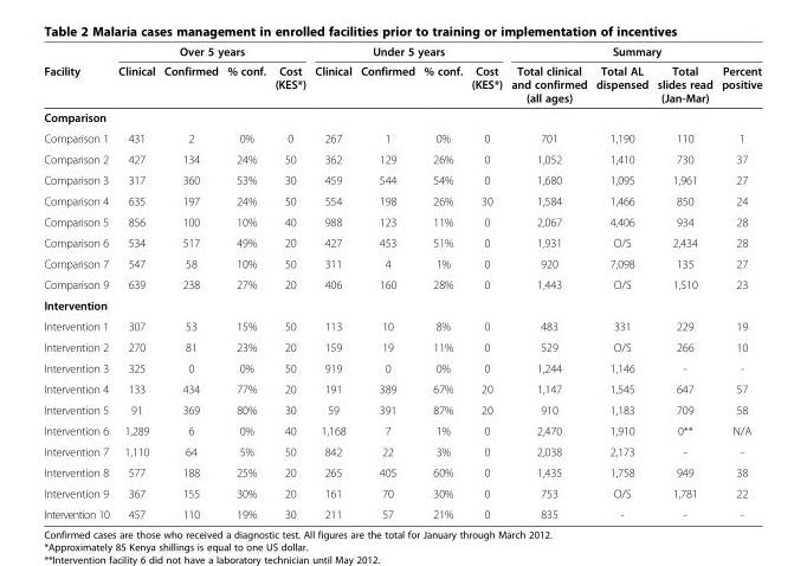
<table><thead><tr><td rowspan="2">Facility</td><td colspan="4">Over 5 years</td><td colspan="4">Under 5 years</td><td colspan="4">Summary</td></tr><tr><td>Clinical</td><td>Confirmed</td><td>% conf.</td><td>Cost (KES*)</td><td>Clinical</td><td>Confirmed</td><td>% conf.</td><td>Cost (KES*)</td><td>Total clinical and confirmed (all ages)</td><td>Total AL dispensed</td><td>Total slides read (Jan-Mar)</td><td>Percent positive</td></tr></thead><tbody><tr><td colspan="13">Comparison</td></tr><tr><td>Comparison 1</td><td>431</td><td>2</td><td>0%</td><td>0</td><td>267</td><td>1</td><td>0%</td><td>0</td><td>701</td><td>1,190</td><td>110</td><td>1</td></tr><tr><td>Comparison 2</td><td>427</td><td>134</td><td>24%</td><td>50</td><td>362</td><td>129</td><td>26%</td><td>0</td><td>1,052</td><td>1,410</td><td>730</td><td>37</td></tr><tr><td>Comparison 3</td><td>317</td><td>360</td><td>53%</td><td>30</td><td>459</td><td>544</td><td>54%</td><td>0</td><td>1,680</td><td>1,095</td><td>1,961</td><td>27</td></tr><tr><td>Comparison 4</td><td>635</td><td>197</td><td>24%</td><td>50</td><td>554</td><td>198</td><td>26%</td><td>30</td><td>1,584</td><td>1,466</td><td>850</td><td>24</td></tr><tr><td>Comparison 5</td><td>856</td><td>100</td><td>10%</td><td>40</td><td>988</td><td>123</td><td>11%</td><td>0</td><td>2,067</td><td>4,406</td><td>934</td><td>28</td></tr><tr><td>Comparison 6</td><td>534</td><td>517</td><td>49%</td><td>20</td><td>427</td><td>453</td><td>51%</td><td>0</td><td>1,931</td><td>O/S</td><td>2,434</td><td>28</td></tr><tr><td>Comparison 7</td><td>547</td><td>58</td><td>10%</td><td>50</td><td>311</td><td>4</td><td>1%</td><td>0</td><td>920</td><td>7,098</td><td>135</td><td>27</td></tr><tr><td>Comparison 9</td><td>639</td><td>238</td><td>27%</td><td>20</td><td>406</td><td>160</td><td>28%</td><td>0</td><td>1,443</td><td>O/S</td><td>1,510</td><td>23</td></tr><tr><td colspan="13">Intervention</td></tr><tr><td>Intervention 1</td><td>307</td><td>53</td><td>15%</td><td>50</td><td>113</td><td>10</td><td>8%</td><td>0</td><td>483</td><td>331</td><td>229</td><td>19</td></tr><tr><td>Intervention 2</td><td>270</td><td>81</td><td>23%</td><td>20</td><td>159</td><td>19</td><td>11%</td><td>0</td><td>529</td><td>O/S</td><td>266</td><td>10</td></tr><tr><td>Intervention 3</td><td>325</td><td>0</td><td>0%</td><td>50</td><td>919</td><td>0</td><td>0%</td><td>0</td><td>1,244</td><td>1,146</td><td>-</td><td>-</td></tr><tr><td>Intervention 4</td><td>133</td><td>434</td><td>77%</td><td>20</td><td>191</td><td>389</td><td>67%</td><td>20</td><td>1,147</td><td>1,545</td><td>647</td><td>57</td></tr><tr><td>Intervention 5</td><td>91</td><td>369</td><td>80%</td><td>30</td><td>59</td><td>391</td><td>87%</td><td>20</td><td>910</td><td>1,183</td><td>709</td><td>58</td></tr><tr><td>Intervention 6</td><td>1,289</td><td>6</td><td>0%</td><td>40</td><td>1,168</td><td>7</td><td>1%</td><td>0</td><td>2,470</td><td>1,910</td><td>0**</td><td>N/A</td></tr><tr><td>Intervention 7</td><td>1,110</td><td>64</td><td>5%</td><td>50</td><td>842</td><td>22</td><td>3%</td><td>0</td><td>2,038</td><td>2,173</td><td>-</td><td>-</td></tr><tr><td>Intervention 8</td><td>577</td><td>188</td><td>25%</td><td>20</td><td>265</td><td>405</td><td>60%</td><td>0</td><td>1,435</td><td>1,758</td><td>949</td><td>38</td></tr><tr><td>Intervention 9</td><td>367</td><td>155</td><td>30%</td><td>20</td><td>161</td><td>70</td><td>30%</td><td>0</td><td>753</td><td>O/S</td><td>1,781</td><td>22</td></tr><tr><td>Intervention 10</td><td>457</td><td>110</td><td>19%</td><td>30</td><td>211</td><td>57</td><td>21%</td><td>0</td><td>835</td><td>-</td><td>-</td><td>-</td></tr></tbody></table>